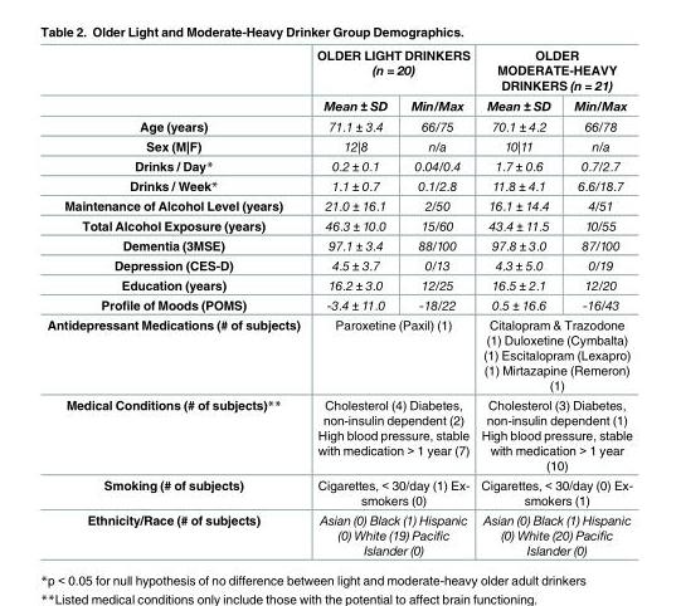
<table><thead><tr><td rowspan="2"></td><td colspan="2">OLDER LIGHT DRINKERS (n = 20)</td><td colspan="2">OLDER MODERATE-HEAVY DRINKERS (n = 21)</td></tr><tr><td>Mean ± SD</td><td>Min/Max</td><td>Mean ± SD</td><td>Min/Max</td></tr></thead><tbody><tr><td>Age (years)</td><td>71.1 ± 3.4</td><td>66/75</td><td>70.1 ± 4.2</td><td>66/78</td></tr><tr><td>Sex (M|F)</td><td>12|8</td><td>n/a</td><td>10|11</td><td>n/a</td></tr><tr><td>Drinks / Day*</td><td>0.2 ± 0.1</td><td>0.04/0.4</td><td>1.7 ± 0.6</td><td>0.7/2.7</td></tr><tr><td>Drinks / Week*</td><td>1.1 ± 0.7</td><td>0.1/2.8</td><td>11.8 ± 4.1</td><td>6.6/18.7</td></tr><tr><td>Maintenance of Alcohol Level (years)</td><td>21.0 ± 16.1</td><td>2/50</td><td>16.1 ± 14.4</td><td>4/51</td></tr><tr><td>Total Alcohol Exposure (years)</td><td>46.3 ± 10.0</td><td>15/60</td><td>43.4 ± 11.5</td><td>10/55</td></tr><tr><td>Dementia (3MSE)</td><td>97.1 ± 3.4</td><td>88/100</td><td>97.8 ± 3.0</td><td>87/100</td></tr><tr><td>Depression (CES-D)</td><td>4.5 ± 3.7</td><td>0/13</td><td>4.3 ± 5.0</td><td>0/19</td></tr><tr><td>Education (years)</td><td>16.2 ± 3.0</td><td>12/25</td><td>16.5 ± 2.1</td><td>12/20</td></tr><tr><td>Profile of Moods (POMS)</td><td>-3.4 ± 11.0</td><td>-18/22</td><td>0.5 ± 16.6</td><td>-16/43</td></tr><tr><td>Antidepressant Medications (# of subjects)</td><td colspan="2">Paroxetine (Paxil) (1)</td><td colspan="2">Citalopram &amp; Trazodone (1) Duloxetine (Cymbalta) (1) Escitalopram (Lexapro) (1) Mirtazapine (Remeron) (1)</td></tr><tr><td>Medical Conditions (# of subjects)**</td><td colspan="2">Cholesterol (4) Diabetes, non-insulin dependent (2) High blood pressure, stable with medication &gt; 1 year (7)</td><td colspan="2">Cholesterol (3) Diabetes, non-insulin dependent (1) High blood pressure, stable with medication &gt; 1 year (10)</td></tr><tr><td>Smoking (# of subjects)</td><td colspan="2">Cigarettes, &lt; 30/day (1) Ex- smokers (0)</td><td colspan="2">Cigarettes, &lt; 30/day (0) Ex- smokers (1)</td></tr><tr><td>Ethnicity/Race (# of subjects)</td><td colspan="2">Asian (0) Black (1) Hispanic (0) White (19) Pacific Islander (0)</td><td colspan="2">Asian (0) Black (1) Hispanic (0) White (20) Pacific Islander (0)</td></tr></tbody></table>